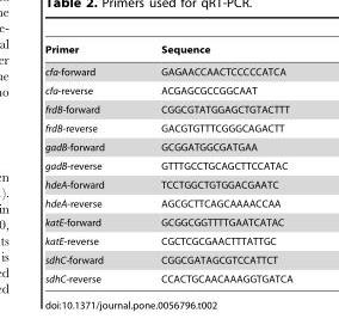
<table><thead><tr><td>Primer</td><td>Sequence</td></tr></thead><tbody><tr><td>cfa-forward</td><td>GAGAACCAACTCCCCCATCA</td></tr><tr><td>cfa-reverse</td><td>ACGAGCGCCGGCAAT</td></tr><tr><td>frdB-forward</td><td>CGGCGTATGGAGCTGTACTTT</td></tr><tr><td>frdB-reverse</td><td>GACGTGTTTCGGGCAGACTT</td></tr><tr><td>gadB-forward</td><td>GCGGATGGCGATGAA</td></tr><tr><td>gadB-reverse</td><td>GTTTGCCTGCAGCTTCCATAC</td></tr><tr><td>hdeA-forward</td><td>TCCTGGCTGTGGACGAATC</td></tr><tr><td>hdeA-reverse</td><td>AGCGCTTCAGCAAAACCAA</td></tr><tr><td>katE-forward</td><td>GCGGCGGTTTTGAATCATAC</td></tr><tr><td>katE-reverse</td><td>CGCTCGCGAACTTTATTGC</td></tr><tr><td>sdhC-forward</td><td>CGGCGATAGCGTCCATTCT</td></tr><tr><td>sdhC-reverse</td><td>CCACTGCAACAAAGGTGATCA</td></tr></tbody></table>